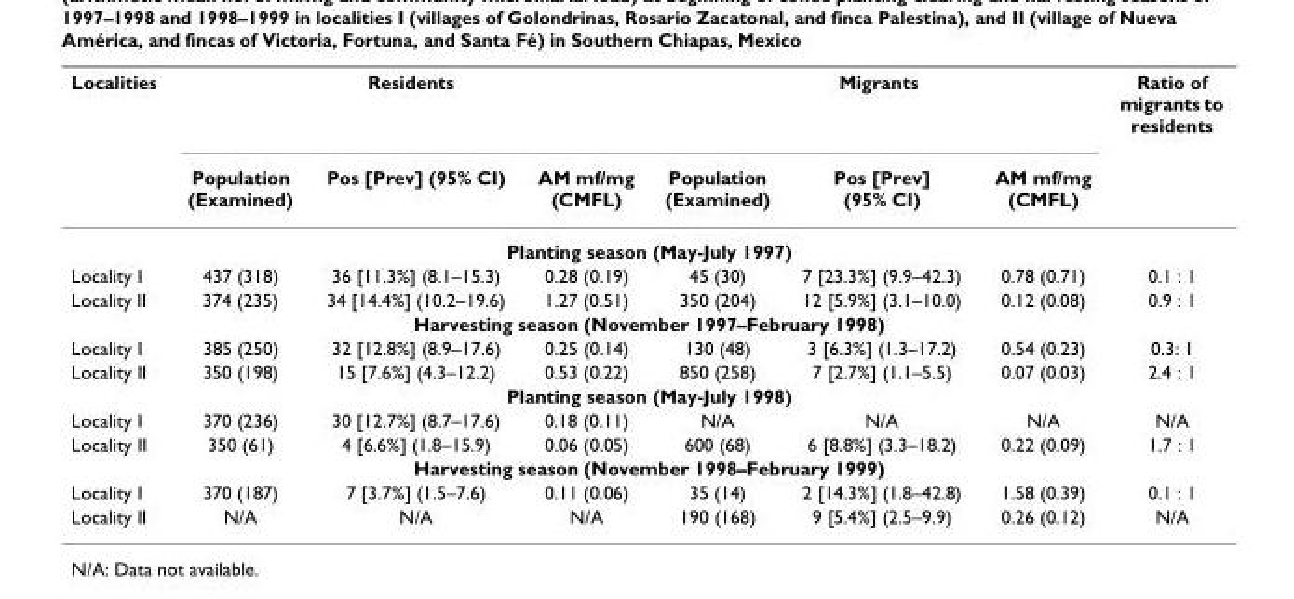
<table><thead><tr><td rowspan="2">Localities</td><td colspan="3">Residents</td><td colspan="3">Migrants</td><td rowspan="2">Ratio of migrants to residents</td></tr><tr><td>Population (Examined)</td><td>Pos [Prev] (95% CI)</td><td>AM mf/mg (CMFL)</td><td>Population (Examined)</td><td>Pos [Prev] (95% CI)</td><td>AM mf/mg (CMFL)</td></tr></thead><tbody><tr><td colspan="8">Planting season (May-July 1997)</td></tr><tr><td>Locality I</td><td>437 (318)</td><td>36 [11.3%] (8.1–15.3)</td><td>0.28 (0.19)</td><td>45 (30)</td><td>7 [23.3%] (9.9–42.3)</td><td>0.78 (0.71)</td><td>0.1 : 1</td></tr><tr><td>Locality II</td><td>374 (235)</td><td>34 [14.4%] (10.2–19.6)</td><td>1.27 (0.51)</td><td>350 (204)</td><td>12 [5.9%] (3.1–10.0)</td><td>0.12 (0.08)</td><td>0.9 : 1</td></tr><tr><td colspan="8">Harvesting season (November 1997–February 1998)</td></tr><tr><td>Locality I</td><td>385 (250)</td><td>32 [12.8%] (8.9–17.6)</td><td>0.25 (0.14)</td><td>130 (48)</td><td>3 [6.3%] (1.3–17.2)</td><td>0.54 (0.23)</td><td>0.3: 1</td></tr><tr><td>Locality II</td><td>350 (198)</td><td>15 [7.6%] (4.3–12.2)</td><td>0.53 (0.22)</td><td>850 (258)</td><td>7 [2.7%] (1.1–5.5)</td><td>0.07 (0.03)</td><td>2.4 : 1</td></tr><tr><td colspan="8">Planting season (May-July 1998)</td></tr><tr><td>Locality I</td><td>370 (236)</td><td>30 [12.7%] (8.7–17.6)</td><td>0.18 (0.11)</td><td>N/A</td><td>N/A</td><td>N/A</td><td>N/A</td></tr><tr><td>Locality II</td><td>350 (61)</td><td>4 [6.6%] (1.8–15.9)</td><td>0.06 (0.05)</td><td>600 (68)</td><td>6 [8.8%] (3.3–18.2)</td><td>0.22 (0.09)</td><td>1.7 : 1</td></tr><tr><td colspan="8">Harvesting season (November 1998–February 1999)</td></tr><tr><td>Locality I</td><td>370 (187)</td><td>7 [3.7%] (1.5–7.6)</td><td>0.11 (0.06)</td><td>35 (14)</td><td>2 [14.3%] (1.8–42.8)</td><td>1.58 (0.39)</td><td>0.1 : 1</td></tr><tr><td>Locality II</td><td>N/A</td><td>N/A</td><td>N/A</td><td>190 (168)</td><td>9 [5.4%] (2.5–9.9)</td><td>0.26 (0.12)</td><td>N/A</td></tr></tbody></table>